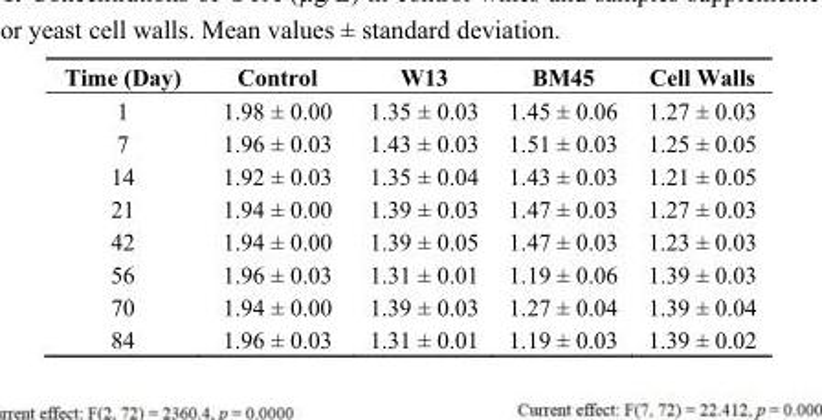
<table><thead><tr><td>Time (Day)</td><td>Control</td><td>W13</td><td>BM45</td><td>Cell Walls</td></tr></thead><tbody><tr><td>1</td><td>1.98 ± 0.00</td><td>1.35 ± 0.03</td><td>1.45 ± 0.06</td><td>1.27 ± 0.03</td></tr><tr><td>7</td><td>1.96 ± 0.03</td><td>1.43 ± 0.03</td><td>1.51 ± 0.03</td><td>1.25 ± 0.05</td></tr><tr><td>14</td><td>1.92 ± 0.03</td><td>1.35 ± 0.04</td><td>1.43 ± 0.03</td><td>1.21 ± 0.05</td></tr><tr><td>21</td><td>1.94 ± 0.00</td><td>1.39 ± 0.03</td><td>1.47 ± 0.03</td><td>1.27 ± 0.03</td></tr><tr><td>42</td><td>1.94 ± 0.00</td><td>1.39 ± 0.05</td><td>1.47 ± 0.03</td><td>1.23 ± 0.03</td></tr><tr><td>56</td><td>1.96 ± 0.03</td><td>1.31 ± 0.01</td><td>1.19 ± 0.06</td><td>1.39 ± 0.03</td></tr><tr><td>70</td><td>1.94 ± 0.00</td><td>1.39 ± 0.03</td><td>1.27 ± 0.04</td><td>1.39 ± 0.04</td></tr><tr><td>84</td><td>1.96 ± 0.03</td><td>1.31 ± 0.01</td><td>1.19 ± 0.03</td><td>1.39 ± 0.02</td></tr></tbody></table>